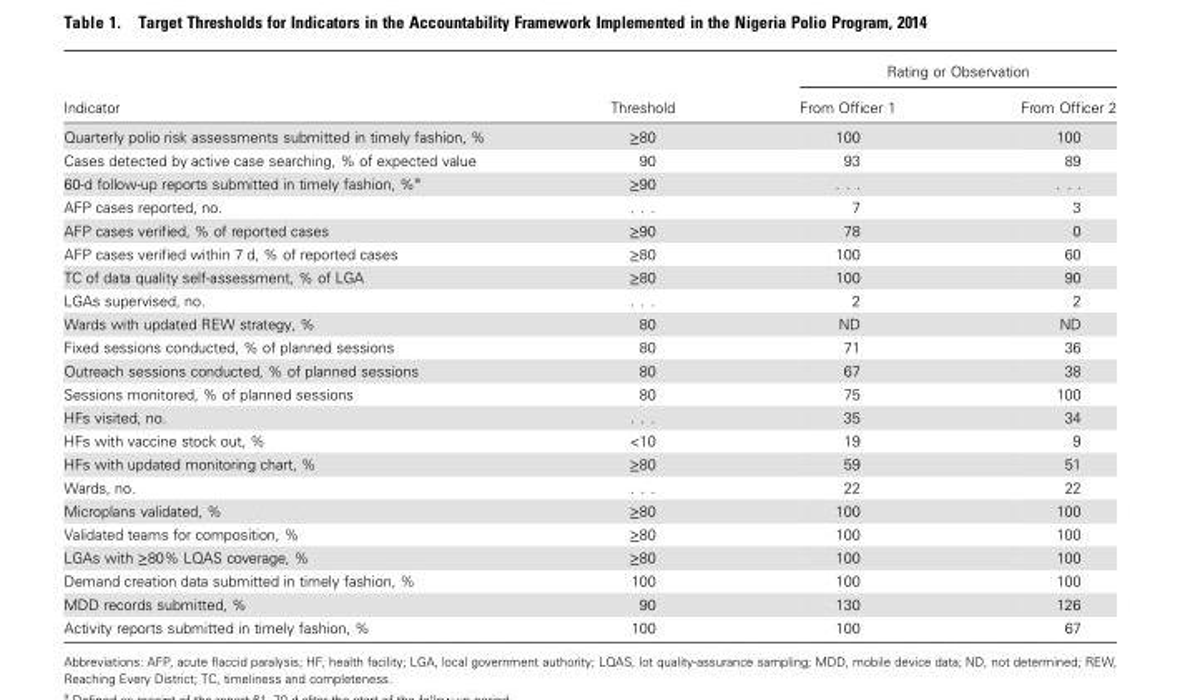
<table><thead><tr><td rowspan="2">Indicator</td><td rowspan="2">Threshold</td><td colspan="2">Rating or Observation</td></tr><tr><td>From Officer 1</td><td>From Officer 2</td></tr></thead><tbody><tr><td>Quarterly polio risk assessments submitted in timely fashion, %</td><td>≥80</td><td>100</td><td>100</td></tr><tr><td>Cases detected by active case searching, % of expected value</td><td>90</td><td>93</td><td>89</td></tr><tr><td>60-d follow-up reports submitted in timely fashion, %<sup>a</sup></td><td>≥90</td><td>. . .</td><td>. . .</td></tr><tr><td>AFP cases reported, no.</td><td>. . .</td><td>7</td><td>3</td></tr><tr><td>AFP cases verified, % of reported cases</td><td>≥90</td><td>78</td><td>0</td></tr><tr><td>AFP cases verified within 7 d, % of reported cases</td><td>≥80</td><td>100</td><td>60</td></tr><tr><td>TC of data quality self-assessment, % of LGA</td><td>≥80</td><td>100</td><td>90</td></tr><tr><td>LGAs supervised, no.</td><td>. . .</td><td>2</td><td>2</td></tr><tr><td>Wards with updated REW strategy, %</td><td>80</td><td>ND</td><td>ND</td></tr><tr><td>Fixed sessions conducted, % of planned sessions</td><td>80</td><td>71</td><td>36</td></tr><tr><td>Outreach sessions conducted, % of planned sessions</td><td>80</td><td>67</td><td>38</td></tr><tr><td>Sessions monitored, % of planned sessions</td><td>80</td><td>75</td><td>100</td></tr><tr><td>HFs visited, no.</td><td>. . .</td><td>35</td><td>34</td></tr><tr><td>HFs with vaccine stock out, %</td><td>&lt;10</td><td>19</td><td>9</td></tr><tr><td>HFs with updated monitoring chart, %</td><td>≥80</td><td>59</td><td>51</td></tr><tr><td>Wards, no.</td><td>. . .</td><td>22</td><td>22</td></tr><tr><td>Microplans validated, %</td><td>≥80</td><td>100</td><td>100</td></tr><tr><td>Validated teams for composition, %</td><td>≥80</td><td>100</td><td>100</td></tr><tr><td>LGAs with ≥80% LQAS coverage, %</td><td>≥80</td><td>100</td><td>100</td></tr><tr><td>Demand creation data submitted in timely fashion, %</td><td>100</td><td>100</td><td>100</td></tr><tr><td>MDD records submitted, %</td><td>90</td><td>130</td><td>126</td></tr><tr><td>Activity reports submitted in timely fashion, %</td><td>100</td><td>100</td><td>67</td></tr></tbody></table>